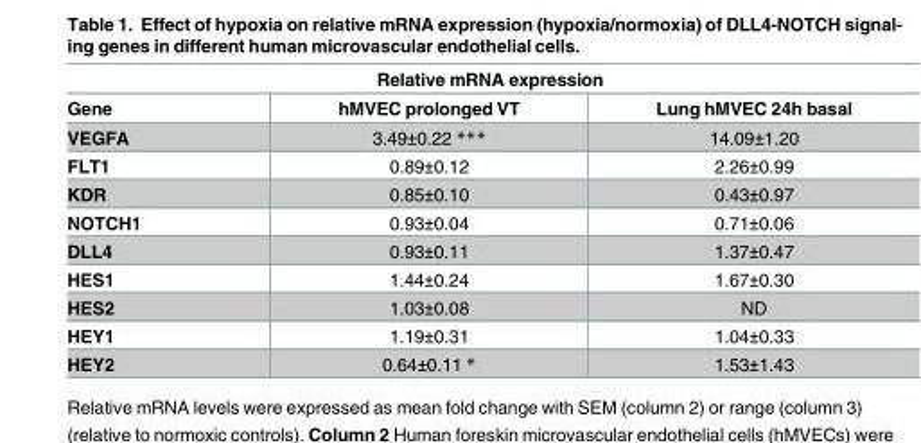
<table><thead><tr><td colspan="3">Relative mRNA expression</td></tr><tr><td>Gene</td><td>hMVEC prolonged VT</td><td>Lung hMVEC 24h basal</td></tr></thead><tbody><tr><td>VEGFA</td><td>3.49±0.22 ***</td><td>14.09±1.20</td></tr><tr><td>FLT1</td><td>0.89±0.12</td><td>2.26±0.99</td></tr><tr><td>KDR</td><td>0.85±0.10</td><td>0.43±0.97</td></tr><tr><td>NOTCH1</td><td>0.93±0.04</td><td>0.71±0.06</td></tr><tr><td>DLL4</td><td>0.93±0.11</td><td>1.37±0.47</td></tr><tr><td>HES1</td><td>1.44±0.24</td><td>1.67±0.30</td></tr><tr><td>HES2</td><td>1.03±0.08</td><td>ND</td></tr><tr><td>HEY1</td><td>1.19±0.31</td><td>1.04±0.33</td></tr><tr><td>HEY2</td><td>0.64±0.11 *</td><td>1.53±1.43</td></tr></tbody></table>